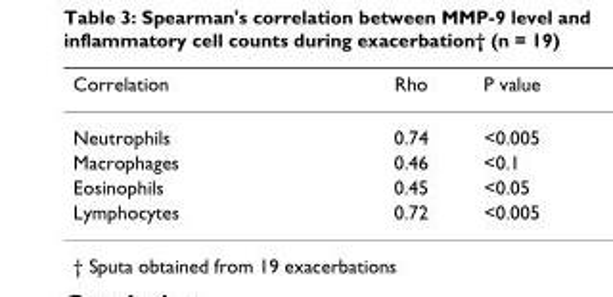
<table><thead><tr><td>Correlation</td><td>Rho</td><td>P value</td></tr></thead><tbody><tr><td>Neutrophils</td><td>0.74</td><td>&lt;0.005</td></tr><tr><td>Macrophages</td><td>0.46</td><td>&lt;0.1</td></tr><tr><td>Eosinophils</td><td>0.45</td><td>&lt;0.05</td></tr><tr><td>Lymphocytes</td><td>0.72</td><td>&lt;0.005</td></tr></tbody></table>